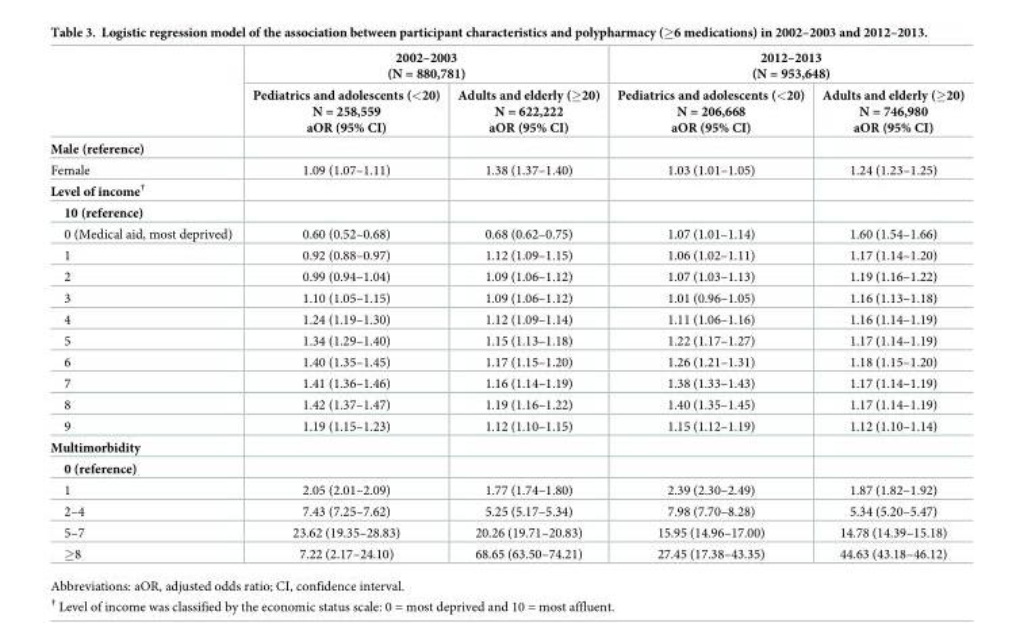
<table><thead><tr><td rowspan="2"></td><td colspan="2">2002–2003 (N = 880,781)</td><td colspan="2">2012–2013 (N = 953,648)</td></tr><tr><td>Pediatrics and adolescents (&lt;20) N = 258,559 aOR (95% CI)</td><td>Adults and elderly (≥20) N = 622,222 aOR (95% CI)</td><td>Pediatrics and adolescents (&lt;20) N = 206,668 aOR (95% CI)</td><td>Adults and elderly (≥20) N = 746,980 aOR (95% CI)</td></tr></thead><tbody><tr><td colspan="5">Male (reference)</td></tr><tr><td>Female</td><td>1.09 (1.07–1.11)</td><td>1.38 (1.37–1.40)</td><td>1.03 (1.01–1.05)</td><td>1.24 (1.23–1.25)</td></tr><tr><td colspan="5">Level of income<sup>†</sup></td></tr><tr><td colspan="5">10 (reference)</td></tr><tr><td>0 (Medical aid, most deprived)</td><td>0.60 (0.52–0.68)</td><td>0.68 (0.62–0.75)</td><td>1.07 (1.01–1.14)</td><td>1.60 (1.54–1.66)</td></tr><tr><td>1</td><td>0.92 (0.88–0.97)</td><td>1.12 (1.09–1.15)</td><td>1.06 (1.02–1.11)</td><td>1.17 (1.14–1.20)</td></tr><tr><td>2</td><td>0.99 (0.94–1.04)</td><td>1.09 (1.06–1.12)</td><td>1.07 (1.03–1.13)</td><td>1.19 (1.16–1.22)</td></tr><tr><td>3</td><td>1.10 (1.05–1.15)</td><td>1.09 (1.06–1.12)</td><td>1.01 (0.96–1.05)</td><td>1.16 (1.13–1.18)</td></tr><tr><td>4</td><td>1.24 (1.19–1.30)</td><td>1.12 (1.09–1.14)</td><td>1.11 (1.06–1.16)</td><td>1.16 (1.14–1.19)</td></tr><tr><td>5</td><td>1.34 (1.29–1.40)</td><td>1.15 (1.13–1.18)</td><td>1.22 (1.17–1.27)</td><td>1.17 (1.14–1.19)</td></tr><tr><td>6</td><td>1.40 (1.35–1.45)</td><td>1.17 (1.15–1.20)</td><td>1.26 (1.21–1.31)</td><td>1.18 (1.15–1.20)</td></tr><tr><td>7</td><td>1.41 (1.36–1.46)</td><td>1.16 (1.14–1.19)</td><td>1.38 (1.33–1.43)</td><td>1.17 (1.14–1.19)</td></tr><tr><td>8</td><td>1.42 (1.37–1.47)</td><td>1.19 (1.16–1.22)</td><td>1.40 (1.35–1.45)</td><td>1.17 (1.14–1.19)</td></tr><tr><td>9</td><td>1.19 (1.15–1.23)</td><td>1.12 (1.10–1.15)</td><td>1.15 (1.12–1.19)</td><td>1.12 (1.10–1.14)</td></tr><tr><td colspan="5">Multimorbidity</td></tr><tr><td colspan="5">0 (reference)</td></tr><tr><td>1</td><td>2.05 (2.01–2.09)</td><td>1.77 (1.74–1.80)</td><td>2.39 (2.30–2.49)</td><td>1.87 (1.82–1.92)</td></tr><tr><td>2–4</td><td>7.43 (7.25–7.62)</td><td>5.25 (5.17–5.34)</td><td>7.98 (7.70–8.28)</td><td>5.34 (5.20–5.47)</td></tr><tr><td>5–7</td><td>23.62 (19.35–28.83)</td><td>20.26 (19.71–20.83)</td><td>15.95 (14.96–17.00)</td><td>14.78 (14.39–15.18)</td></tr><tr><td>≥8</td><td>7.22 (2.17–24.10)</td><td>68.65 (63.50–74.21)</td><td>27.45 (17.38–43.35)</td><td>44.63 (43.18–46.12)</td></tr></tbody></table>